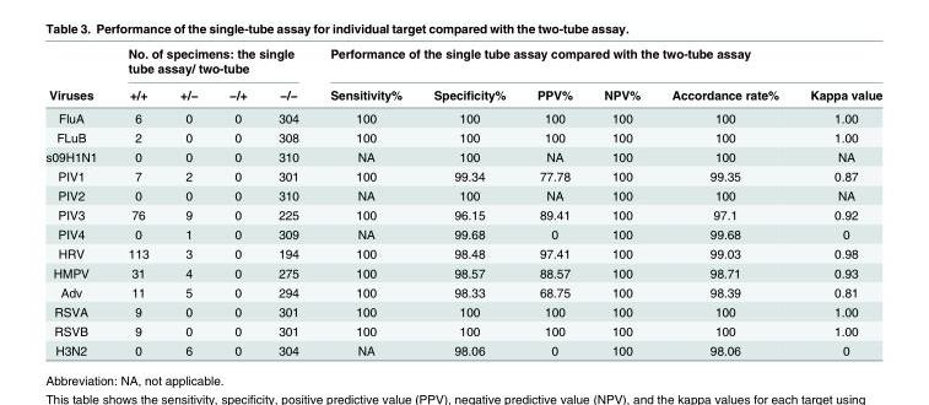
<table><thead><tr><td rowspan="2">Viruses</td><td colspan="4">No. of specimens: the single tube assay/ two-tube</td><td colspan="6">Performance of the single tube assay compared with the two-tube assay</td></tr><tr><td>+/+</td><td>+/−</td><td>−/+</td><td>−/−</td><td>Sensitivity%</td><td>Specificity%</td><td>PPV%</td><td>NPV%</td><td>Accordance rate%</td><td>Kappa value</td></tr></thead><tbody><tr><td>FluA</td><td>6</td><td>0</td><td>0</td><td>304</td><td>100</td><td>100</td><td>100</td><td>100</td><td>100</td><td>1.00</td></tr><tr><td>FLuB</td><td>2</td><td>0</td><td>0</td><td>308</td><td>100</td><td>100</td><td>100</td><td>100</td><td>100</td><td>1.00</td></tr><tr><td>s09H1N1</td><td>0</td><td>0</td><td>0</td><td>310</td><td>NA</td><td>100</td><td>NA</td><td>100</td><td>100</td><td>NA</td></tr><tr><td>PIV1</td><td>7</td><td>2</td><td>0</td><td>301</td><td>100</td><td>99.34</td><td>77.78</td><td>100</td><td>99.35</td><td>0.87</td></tr><tr><td>PIV2</td><td>0</td><td>0</td><td>0</td><td>310</td><td>NA</td><td>100</td><td>NA</td><td>100</td><td>100</td><td>NA</td></tr><tr><td>PIV3</td><td>76</td><td>9</td><td>0</td><td>225</td><td>100</td><td>96.15</td><td>89.41</td><td>100</td><td>97.1</td><td>0.92</td></tr><tr><td>PIV4</td><td>0</td><td>1</td><td>0</td><td>309</td><td>NA</td><td>99.68</td><td>0</td><td>100</td><td>99.68</td><td>0</td></tr><tr><td>HRV</td><td>113</td><td>3</td><td>0</td><td>194</td><td>100</td><td>98.48</td><td>97.41</td><td>100</td><td>99.03</td><td>0.98</td></tr><tr><td>HMPV</td><td>31</td><td>4</td><td>0</td><td>275</td><td>100</td><td>98.57</td><td>88.57</td><td>100</td><td>98.71</td><td>0.93</td></tr><tr><td>Adv</td><td>11</td><td>5</td><td>0</td><td>294</td><td>100</td><td>98.33</td><td>68.75</td><td>100</td><td>98.39</td><td>0.81</td></tr><tr><td>RSVA</td><td>9</td><td>0</td><td>0</td><td>301</td><td>100</td><td>100</td><td>100</td><td>100</td><td>100</td><td>1.00</td></tr><tr><td>RSVB</td><td>9</td><td>0</td><td>0</td><td>301</td><td>100</td><td>100</td><td>100</td><td>100</td><td>100</td><td>1.00</td></tr><tr><td>H3N2</td><td>0</td><td>6</td><td>0</td><td>304</td><td>NA</td><td>98.06</td><td>0</td><td>100</td><td>98.06</td><td>0</td></tr></tbody></table>